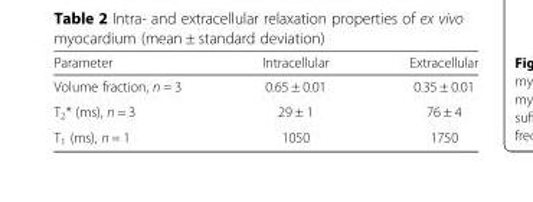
<table><thead><tr><td>Parameter</td><td>Intracellular</td><td>Extracellular</td></tr></thead><tbody><tr><td>Volume fraction, n = 3</td><td>0.65 ± 0.01</td><td>0.35 ± 0.01</td></tr><tr><td>T<sub>2</sub>* (ms), n = 3</td><td>29 ± 1</td><td>76 ± 4</td></tr><tr><td>T<sub>1</sub> (ms), n = 1</td><td>1050</td><td>1750</td></tr></tbody></table>